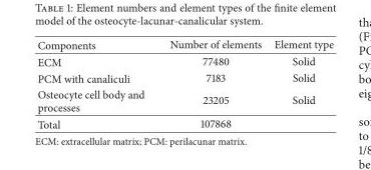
<table><thead><tr><td>Components</td><td>Number of elements</td><td>Element type</td></tr></thead><tbody><tr><td>ECM</td><td>77480</td><td>Solid</td></tr><tr><td>PCM with canaliculi</td><td>7183</td><td>Solid</td></tr><tr><td>Osteocyte cell body and processes</td><td>23205</td><td>Solid</td></tr><tr><td>Total</td><td>107868</td><td></td></tr></tbody></table>